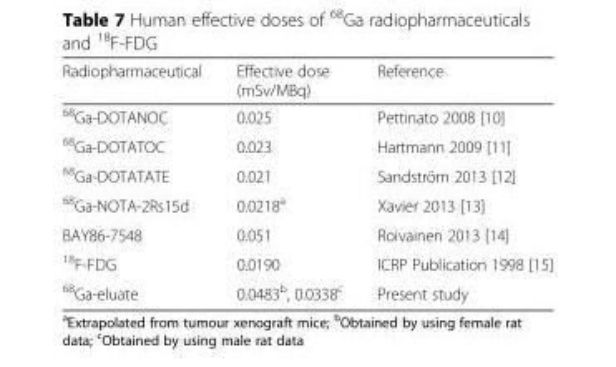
<table><thead><tr><td>Radiopharmaceutical</td><td>Effective dose (mSv/MBq)</td><td>Reference</td></tr></thead><tbody><tr><td><sup>68</sup>Ga-DOTANOC</td><td>0.025</td><td>Pettinato 2008 [10]</td></tr><tr><td><sup>68</sup>Ga-DOTATOC</td><td>0.023</td><td>Hartmann 2009 [11]</td></tr><tr><td><sup>68</sup>Ga-DOTATATE</td><td>0.021</td><td>Sandström 2013 [12]</td></tr><tr><td><sup>68</sup>Ga-NOTA-2Rs15d</td><td>0.0218<sup>a</sup></td><td>Xavier 2013 [13]</td></tr><tr><td>BAY86-7548</td><td>0.051</td><td>Roivainen 2013 [14]</td></tr><tr><td><sup>18</sup>F-FDG</td><td>0.0190</td><td>ICRP Publication 1998 [15]</td></tr><tr><td><sup>68</sup>Ga-eluate</td><td>0.0483<sup>b</sup>, 0.0338<sup>c</sup></td><td>Present study</td></tr></tbody></table>